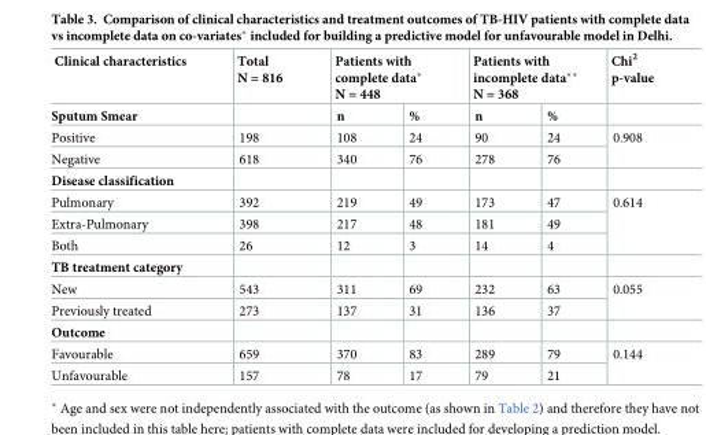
<table><thead><tr><td rowspan="2">Clinical characteristics Sputum Smear</td><td rowspan="2">Total N = 816</td><td colspan="2">Patients with complete data* N = 448</td><td colspan="2">Patients with incomplete data** N = 368</td><td rowspan="2">Chi<sup>2</sup> p-value</td></tr><tr><td>n</td><td>%</td><td>n</td><td>%</td></tr></thead><tbody><tr><td>Positive</td><td>198</td><td>108</td><td>24</td><td>90</td><td>24</td><td rowspan="2">0.908</td></tr><tr><td>Negative</td><td>618</td><td>340</td><td>76</td><td>278</td><td>76</td></tr><tr><td colspan="7">Disease classification</td></tr><tr><td>Pulmonary</td><td>392</td><td>219</td><td>49</td><td>173</td><td>47</td><td rowspan="3">0.614</td></tr><tr><td>Extra-Pulmonary</td><td>398</td><td>217</td><td>48</td><td>181</td><td>49</td></tr><tr><td>Both</td><td>26</td><td>12</td><td>3</td><td>14</td><td>4</td></tr><tr><td colspan="7">TB treatment category</td></tr><tr><td>New</td><td>543</td><td>311</td><td>69</td><td>232</td><td>63</td><td rowspan="2">0.055</td></tr><tr><td>Previously treated</td><td>273</td><td>137</td><td>31</td><td>136</td><td>37</td></tr><tr><td colspan="7">Outcome</td></tr><tr><td>Favourable</td><td>659</td><td>370</td><td>83</td><td>289</td><td>79</td><td rowspan="2">0.144</td></tr><tr><td>Unfavourable</td><td>157</td><td>78</td><td>17</td><td>79</td><td>21</td></tr></tbody></table>